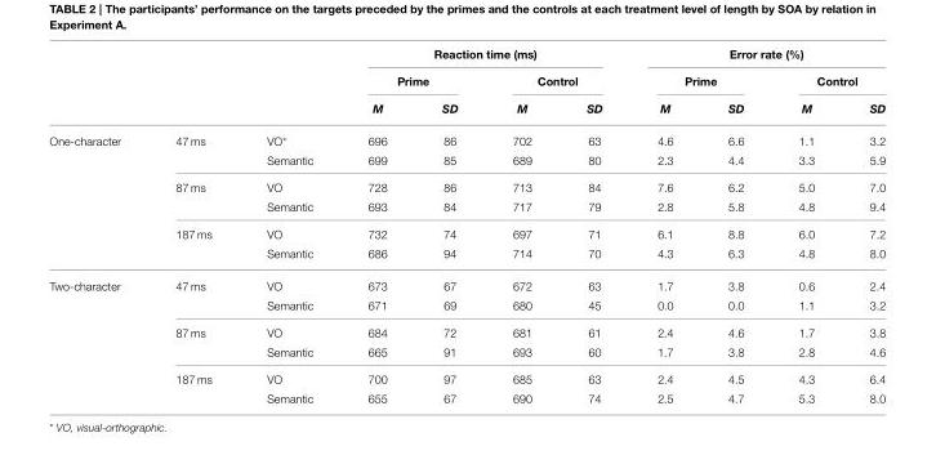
<table><thead><tr><td rowspan="3"></td><td rowspan="3"></td><td rowspan="3"></td><td colspan="4">Reaction time (ms)</td><td colspan="4">Error rate (%)</td></tr><tr><td colspan="2">Prime</td><td colspan="2">Control</td><td colspan="2">Prime</td><td colspan="2">Control</td></tr><tr><td>M</td><td>SD</td><td>M</td><td>SD</td><td>M</td><td>SD</td><td>M</td><td>SD</td></tr></thead><tbody><tr><td rowspan="6">One-character</td><td>47 ms</td><td>VO*</td><td>696</td><td>86</td><td>702</td><td>63</td><td>4.6</td><td>6.6</td><td>1.1</td><td>3.2</td></tr><tr><td></td><td>Semantic</td><td>699</td><td>85</td><td>689</td><td>80</td><td>2.3</td><td>4.4</td><td>3.3</td><td>5.9</td></tr><tr><td>87 ms</td><td>VO</td><td>728</td><td>86</td><td>713</td><td>84</td><td>7.6</td><td>6.2</td><td>5.0</td><td>7.0</td></tr><tr><td></td><td>Semantic</td><td>693</td><td>84</td><td>717</td><td>79</td><td>2.8</td><td>5.8</td><td>4.8</td><td>9.4</td></tr><tr><td>187 ms</td><td>VO</td><td>732</td><td>74</td><td>697</td><td>71</td><td>6.1</td><td>8.8</td><td>6.0</td><td>7.2</td></tr><tr><td></td><td>Semantic</td><td>686</td><td>94</td><td>714</td><td>70</td><td>4.3</td><td>6.3</td><td>4.8</td><td>8.0</td></tr><tr><td rowspan="6">Two-character</td><td>47 ms</td><td>VO</td><td>673</td><td>67</td><td>672</td><td>63</td><td>1.7</td><td>3.8</td><td>0.6</td><td>2.4</td></tr><tr><td></td><td>Semantic</td><td>671</td><td>69</td><td>680</td><td>45</td><td>0.0</td><td>0.0</td><td>1.1</td><td>3.2</td></tr><tr><td>87 ms</td><td>VO</td><td>684</td><td>72</td><td>681</td><td>61</td><td>2.4</td><td>4.6</td><td>1.7</td><td>3.8</td></tr><tr><td></td><td>Semantic</td><td>665</td><td>91</td><td>693</td><td>60</td><td>1.7</td><td>3.8</td><td>2.8</td><td>4.6</td></tr><tr><td>187 ms</td><td>VO</td><td>700</td><td>97</td><td>685</td><td>63</td><td>2.4</td><td>4.5</td><td>4.3</td><td>6.4</td></tr><tr><td></td><td>Semantic</td><td>655</td><td>67</td><td>690</td><td>74</td><td>2.5</td><td>4.7</td><td>5.3</td><td>8.0</td></tr></tbody></table>